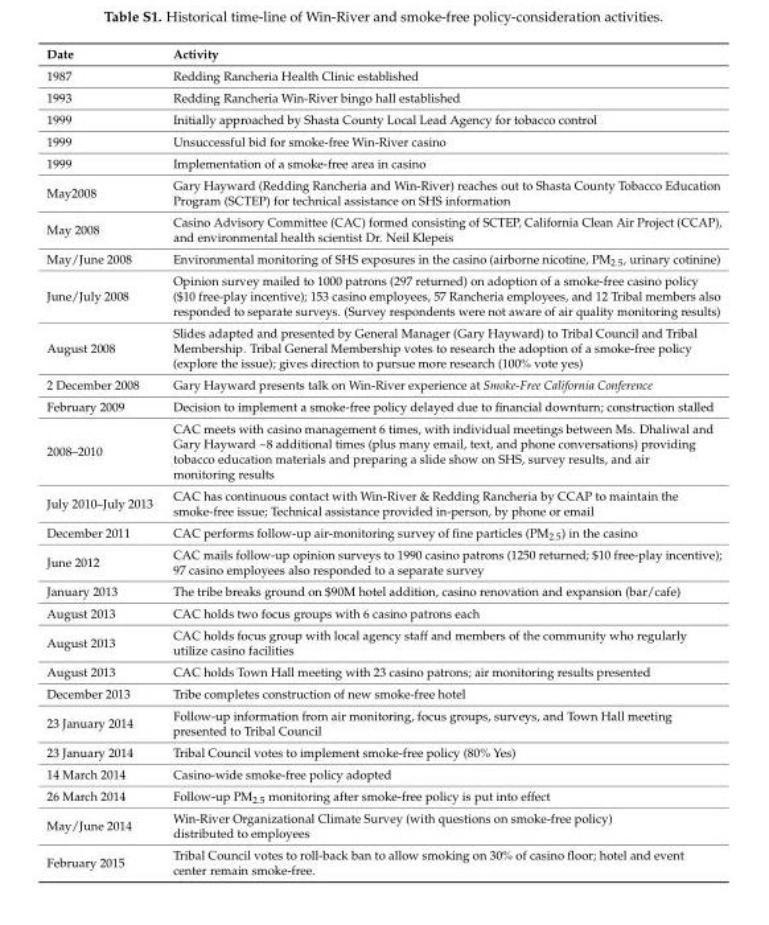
<table><thead><tr><td>Date</td><td>Activity</td></tr></thead><tbody><tr><td>1987</td><td>Redding Rancheria Health Clinic established</td></tr><tr><td>1993</td><td>Redding Rancheria Win-River bingo hall established</td></tr><tr><td>1999</td><td>Initially approached by Shasta County Local Lead Agency for tobacco control</td></tr><tr><td>1999</td><td>Unsuccessful bid for smoke-free Win-River casino</td></tr><tr><td>1999</td><td>Implementation of a smoke-free area in casino</td></tr><tr><td>May2008</td><td>Gary Hayward (Redding Rancheria and Win-River) reaches out to Shasta County Tobacco Education Program (SCTEP) for technical assistance on SHS information</td></tr><tr><td>May 2008</td><td>Casino Advisory Committee (CAC) formed consisting of SCTEP, California Clean Air Project (CCAP), and environmental health scientist Dr. Neil Klepeis</td></tr><tr><td>May/June 2008</td><td>Environmental monitoring of SHS exposures in the casino (airborne nicotine, PM<sub>2.5</sub>, urinary cotinine)</td></tr><tr><td>June/July 2008</td><td>Opinion survey mailed to 1000 patrons (297 returned) on adoption of a smoke-free casino policy ($10 free-play incentive); 153 casino employees, 57 Rancheria employees, and 12 Tribal members also responded to separate surveys. (Survey respondents were not aware of air quality monitoring results)</td></tr><tr><td>August 2008</td><td>Slides adapted and presented by General Manager (Gary Hayward) to Tribal Council and Tribal Membership. Tribal General Membership votes to research the adoption of a smoke-free policy (explore the issue); gives direction to pursue more research (100% vote yes)</td></tr><tr><td>2 December 2008</td><td>Gary Hayward presents talk on Win-River experience at Smoke-Free California Conference</td></tr><tr><td>February 2009</td><td>Decision to implement a smoke-free policy delayed due to financial downturn; construction stalled</td></tr><tr><td>2008–2010</td><td>CAC meets with casino management 6 times, with individual meetings between Ms. Dhaliwal and Gary Hayward ~8 additional times (plus many email, text, and phone conversations) providing tobacco education materials and preparing a slide show on SHS, survey results, and air monitoring results</td></tr><tr><td>July 2010–July 2013</td><td>CAC has continuous contact with Win-River &amp; Redding Rancheria by CCAP to maintain the smoke-free issue; Technical assistance provided in-person, by phone or email</td></tr><tr><td>December 2011</td><td>CAC performs follow-up air-monitoring survey of fine particles (PM<sub>2.5</sub>) in the casino</td></tr><tr><td>June 2012</td><td>CAC mails follow-up opinion surveys to 1990 casino patrons (1250 returned; $10 free-play incentive); 97 casino employees also responded to a separate survey</td></tr><tr><td>January 2013</td><td>The tribe breaks ground on $90M hotel addition, casino renovation and expansion (bar/cafe)</td></tr><tr><td>August 2013</td><td>CAC holds two focus groups with 6 casino patrons each</td></tr><tr><td>August 2013</td><td>CAC holds focus group with local agency staff and members of the community who regularly utilize casino facilities</td></tr><tr><td>August 2013</td><td>CAC holds Town Hall meeting with 23 casino patrons; air monitoring results presented</td></tr><tr><td>December 2013</td><td>Tribe completes construction of new smoke-free hotel</td></tr><tr><td>23 January 2014</td><td>Follow-up information from air monitoring, focus groups, surveys, and Town Hall meeting presented to Tribal Council</td></tr><tr><td>23 January 2014</td><td>Tribal Council votes to implement smoke-free policy (80% Yes)</td></tr><tr><td>14 March 2014</td><td>Casino-wide smoke-free policy adopted</td></tr><tr><td>26 March 2014</td><td>Follow-up PM<sub>2.5</sub> monitoring after smoke-free policy is put into effect</td></tr><tr><td>May/June 2014</td><td>Win-River Organizational Climate Survey (with questions on smoke-free policy) distributed to employees</td></tr><tr><td>February 2015</td><td>Tribal Council votes to roll-back ban to allow smoking on 30% of casino floor; hotel and event center remain smoke-free.</td></tr></tbody></table>